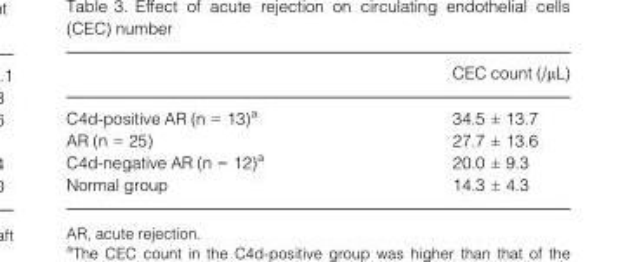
<table><thead><tr><td></td><td>CEC count (/μL)</td></tr></thead><tbody><tr><td>C4d-positive AR (n = 13)<sup>a</sup></td><td>34.5 ± 13.7</td></tr><tr><td>AR (n = 25)</td><td>27.7 ± 13.6</td></tr><tr><td>C4d-negative AR (n = 12)<sup>a</sup></td><td>20.0 ± 9.3</td></tr><tr><td>Normal group</td><td>14.3 ± 4.3</td></tr></tbody></table>